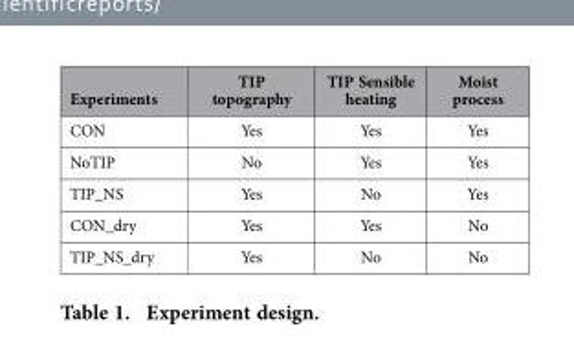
<table><thead><tr><td>Experiments</td><td>TIP topography</td><td>TIP Sensible heating</td><td>Moist process</td></tr></thead><tbody><tr><td>CON</td><td>Yes</td><td>Yes</td><td>Yes</td></tr><tr><td>NoTIP</td><td>No</td><td>Yes</td><td>Yes</td></tr><tr><td>TIP_NS</td><td>Yes</td><td>No</td><td>Yes</td></tr><tr><td>CON_dry</td><td>Yes</td><td>Yes</td><td>No</td></tr><tr><td>TIP_NS_dry</td><td>Yes</td><td>No</td><td>No</td></tr></tbody></table>